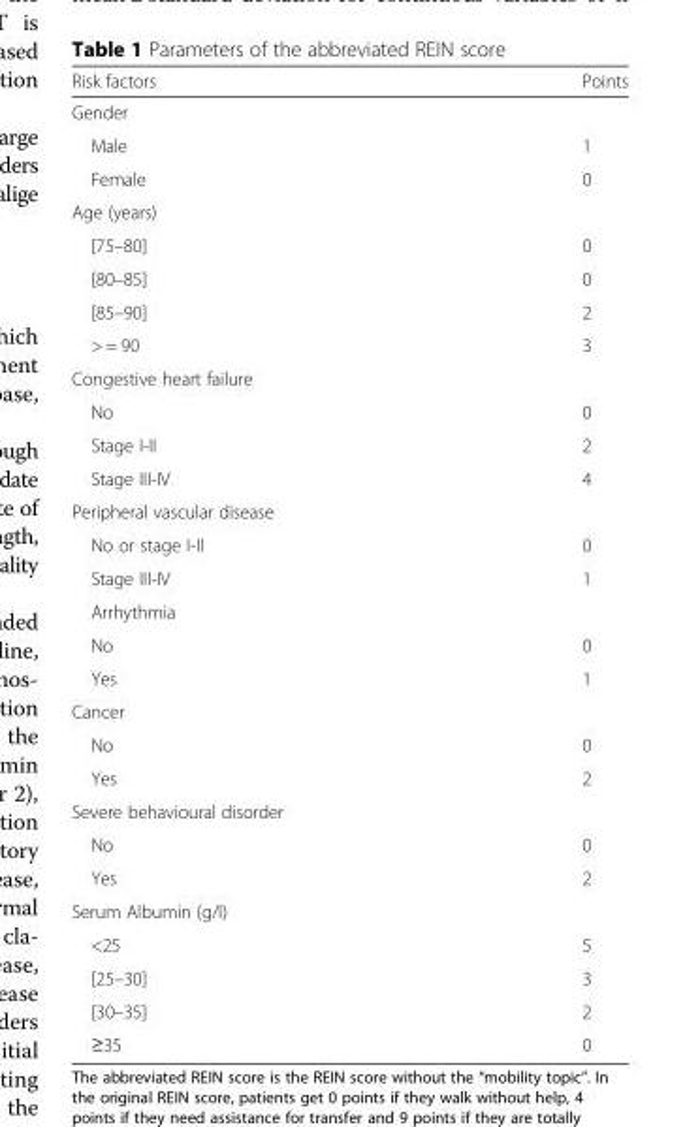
<table><thead><tr><td>Risk factors</td><td>Points</td></tr></thead><tbody><tr><td colspan="2">Gender</td></tr><tr><td>Male</td><td>1</td></tr><tr><td>Female</td><td>0</td></tr><tr><td colspan="2">Age (years)</td></tr><tr><td>[75–80]</td><td>0</td></tr><tr><td>[80–85]</td><td>0</td></tr><tr><td>[85–90]</td><td>2</td></tr><tr><td>&gt; = 90</td><td>3</td></tr><tr><td colspan="2">Congestive heart failure</td></tr><tr><td>No</td><td>0</td></tr><tr><td>Stage I-II</td><td>2</td></tr><tr><td>Stage III-IV</td><td>4</td></tr><tr><td colspan="2">Peripheral vascular disease</td></tr><tr><td>No or stage I-II</td><td>0</td></tr><tr><td>Stage III-IV</td><td>1</td></tr><tr><td colspan="2">Arrhythmia</td></tr><tr><td>No</td><td>0</td></tr><tr><td>Yes</td><td>1</td></tr><tr><td colspan="2">Cancer</td></tr><tr><td>No</td><td>0</td></tr><tr><td>Yes</td><td>2</td></tr><tr><td colspan="2">Severe behavioural disorder</td></tr><tr><td>No</td><td>0</td></tr><tr><td>Yes</td><td>2</td></tr><tr><td colspan="2">Serum Albumin (g/l)</td></tr><tr><td>&lt;25</td><td>5</td></tr><tr><td>[25–30]</td><td>3</td></tr><tr><td>[30–35]</td><td>2</td></tr><tr><td>≥35</td><td>0</td></tr></tbody></table>